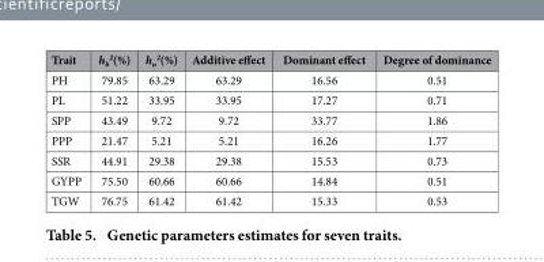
<table><thead><tr><td>Trait</td><td>h<sub>b</sub> <sup>2</sup>(%)</td><td>h<sub>n</sub> <sup>2</sup>(%)</td><td>Additive effect</td><td>Dominant effect</td><td>Degree of dominance</td></tr></thead><tbody><tr><td>PH</td><td>79.85</td><td>63.29</td><td>63.29</td><td>16.56</td><td>0.51</td></tr><tr><td>PL</td><td>51.22</td><td>33.95</td><td>33.95</td><td>17.27</td><td>0.71</td></tr><tr><td>SPP</td><td>43.49</td><td>9.72</td><td>9.72</td><td>33.77</td><td>1.86</td></tr><tr><td>PPP</td><td>21.47</td><td>5.21</td><td>5.21</td><td>16.26</td><td>1.77</td></tr><tr><td>SSR</td><td>44.91</td><td>29.38</td><td>29.38</td><td>15.53</td><td>0.73</td></tr><tr><td>GYPP</td><td>75.50</td><td>60.66</td><td>60.66</td><td>14.84</td><td>0.51</td></tr><tr><td>TGW</td><td>76.75</td><td>61.42</td><td>61.42</td><td>15.33</td><td>0.53</td></tr></tbody></table>